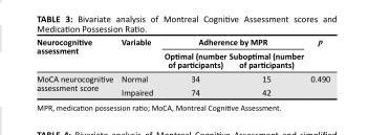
<table><thead><tr><td rowspan="2">Neurocognitive assessment</td><td rowspan="2">Variable</td><td colspan="2">Adherence by MPR</td><td rowspan="2">p</td></tr><tr><td>Optimal (number of participants)</td><td>Suboptimal (number of participants)</td></tr></thead><tbody><tr><td rowspan="2">MoCA neurocognitive assessment score</td><td>Normal</td><td>34</td><td>15</td><td rowspan="2">0.490</td></tr><tr><td>Impaired</td><td>74</td><td>42</td></tr></tbody></table>